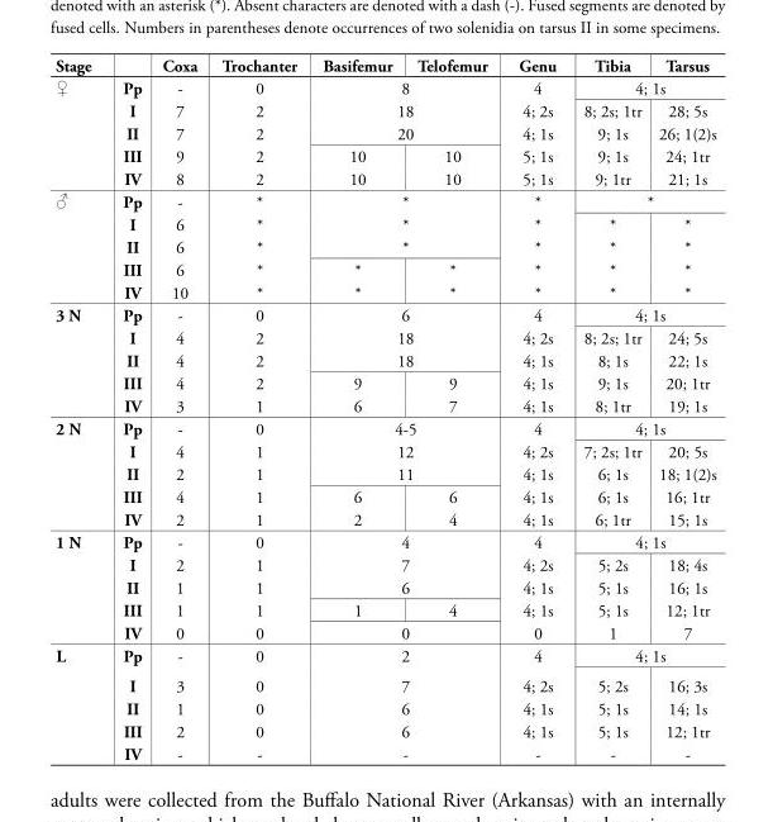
<table><thead><tr><td>Stage</td><td></td><td>Coxa</td><td>Trochanter</td><td>Basifemur</td><td>Telofemur</td><td>Genu</td><td>Tibia</td><td>Tarsus</td></tr></thead><tbody><tr><td rowspan="5">♀</td><td>Pp</td><td>-</td><td>0</td><td colspan="2">8</td><td>4</td><td colspan="2">4; 1s</td></tr><tr><td>I</td><td>7</td><td>2</td><td colspan="2">18</td><td>4; 2s</td><td>8; 2s; 1tr</td><td>28; 5s</td></tr><tr><td>II</td><td>7</td><td>2</td><td colspan="2">20</td><td>4; 1s</td><td>9; 1s</td><td>26; 1(2)s</td></tr><tr><td>III</td><td>9</td><td>2</td><td>10</td><td>10</td><td>5; 1s</td><td>9; 1s</td><td>24; 1tr</td></tr><tr><td>IV</td><td>8</td><td>2</td><td>10</td><td>10</td><td>5; 1s</td><td>9; 1tr</td><td>21; 1s</td></tr><tr><td rowspan="5">♂</td><td>Pp</td><td>-</td><td>*</td><td colspan="2">*</td><td>*</td><td colspan="2">*</td></tr><tr><td>I</td><td>6</td><td>*</td><td colspan="2">*</td><td>*</td><td>*</td><td>*</td></tr><tr><td>II</td><td>6</td><td>*</td><td colspan="2">*</td><td>*</td><td>*</td><td>*</td></tr><tr><td>III</td><td>6</td><td>*</td><td>*</td><td>*</td><td>*</td><td>*</td><td>*</td></tr><tr><td>IV</td><td>10</td><td>*</td><td>*</td><td>*</td><td>*</td><td>*</td><td>*</td></tr><tr><td rowspan="5">3 N</td><td>Pp</td><td>-</td><td>0</td><td colspan="2">6</td><td>4</td><td colspan="2">4; 1s</td></tr><tr><td>I</td><td>4</td><td>2</td><td colspan="2">18</td><td>4; 2s</td><td>8; 2s; 1tr</td><td>24; 5s</td></tr><tr><td>II</td><td>4</td><td>2</td><td colspan="2">18</td><td>4; 1s</td><td>8; 1s</td><td>22; 1s</td></tr><tr><td>III</td><td>4</td><td>2</td><td>9</td><td>9</td><td>4; 1s</td><td>9; 1s</td><td>20; 1tr</td></tr><tr><td>IV</td><td>3</td><td>1</td><td>6</td><td>7</td><td>4; 1s</td><td>8; 1tr</td><td>19; 1s</td></tr><tr><td rowspan="5">2 N</td><td>Pp</td><td>-</td><td>0</td><td colspan="2">4-5</td><td>4</td><td colspan="2">4; 1s</td></tr><tr><td>I</td><td>4</td><td>1</td><td colspan="2">12</td><td>4; 2s</td><td>7; 2s; 1tr</td><td>20; 5s</td></tr><tr><td>II</td><td>2</td><td>1</td><td colspan="2">11</td><td>4; 1s</td><td>6; 1s</td><td>18; 1(2)s</td></tr><tr><td>III</td><td>4</td><td>1</td><td>6</td><td>6</td><td>4; 1s</td><td>6; 1s</td><td>16; 1tr</td></tr><tr><td>IV</td><td>2</td><td>1</td><td>2</td><td>4</td><td>4; 1s</td><td>6; 1tr</td><td>15; 1s</td></tr><tr><td rowspan="5">1 N</td><td>Pp</td><td>-</td><td>0</td><td colspan="2">4</td><td>4</td><td colspan="2">4; 1s</td></tr><tr><td>I</td><td>2</td><td>1</td><td colspan="2">7</td><td>4; 2s</td><td>5; 2s</td><td>18; 4s</td></tr><tr><td>II</td><td>1</td><td>1</td><td colspan="2">6</td><td>4; 1s</td><td>5; 1s</td><td>16; 1s</td></tr><tr><td>III</td><td>1</td><td>1</td><td>1</td><td>4</td><td>4; 1s</td><td>5; 1s</td><td>12; 1tr</td></tr><tr><td>IV</td><td>0</td><td>0</td><td colspan="2">0</td><td>0</td><td>1</td><td>7</td></tr><tr><td rowspan="5">L</td><td>Pp</td><td>-</td><td>0</td><td colspan="2">2</td><td>4</td><td colspan="2">4; 1s</td></tr><tr><td>I</td><td>3</td><td>0</td><td colspan="2">7</td><td>4; 2s</td><td>5; 2s</td><td>16; 3s</td></tr><tr><td>II</td><td>1</td><td>0</td><td colspan="2">6</td><td>4; 1s</td><td>5; 1s</td><td>14; 1s</td></tr><tr><td>III</td><td>2</td><td>0</td><td colspan="2">6</td><td>4; 1s</td><td>5; 1s</td><td>12; 1tr</td></tr><tr><td>IV</td><td>-</td><td>-</td><td colspan="2">-</td><td>-</td><td>-</td><td>-</td></tr></tbody></table>